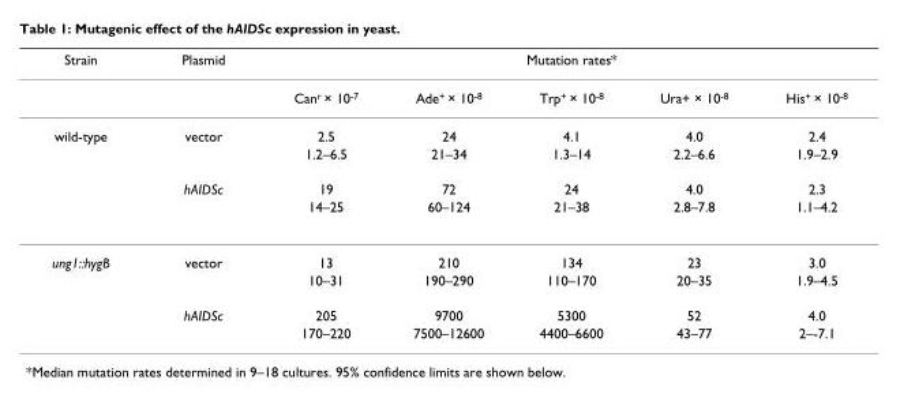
<table><thead><tr><td rowspan="2">Strain</td><td rowspan="2">Plasmid</td><td colspan="5">Mutation rates*</td></tr><tr><td>Canr × 10-7</td><td>Ade+ × 10-8</td><td>Trp+ × 10-8</td><td>Ura+ × 10-8</td><td>His+ × 10-8</td></tr></thead><tbody><tr><td rowspan="4">wild-type</td><td>vector</td><td>2.5</td><td>24</td><td>4.1</td><td>4.0</td><td>2.4</td></tr><tr><td></td><td>1.2–6.5</td><td>21–34</td><td>1.3–14</td><td>2.2–6.6</td><td>1.9–2.9</td></tr><tr><td>hAIDSc</td><td>19</td><td>72</td><td>24</td><td>4.0</td><td>2.3</td></tr><tr><td></td><td>14–25</td><td>60–124</td><td>21–38</td><td>2.8–7.8</td><td>1.1–4.2</td></tr><tr><td rowspan="4">ung1::hygB</td><td>vector</td><td>13</td><td>210</td><td>134</td><td>23</td><td>3.0</td></tr><tr><td></td><td>10–31</td><td>190–290</td><td>110–170</td><td>20–35</td><td>1.9–4.5</td></tr><tr><td>hAIDSc</td><td>205</td><td>9700</td><td>5300</td><td>52</td><td>4.0</td></tr><tr><td></td><td>170–220</td><td>7500–12600</td><td>4400–6600</td><td>43–77</td><td>2–-7.1</td></tr></tbody></table>